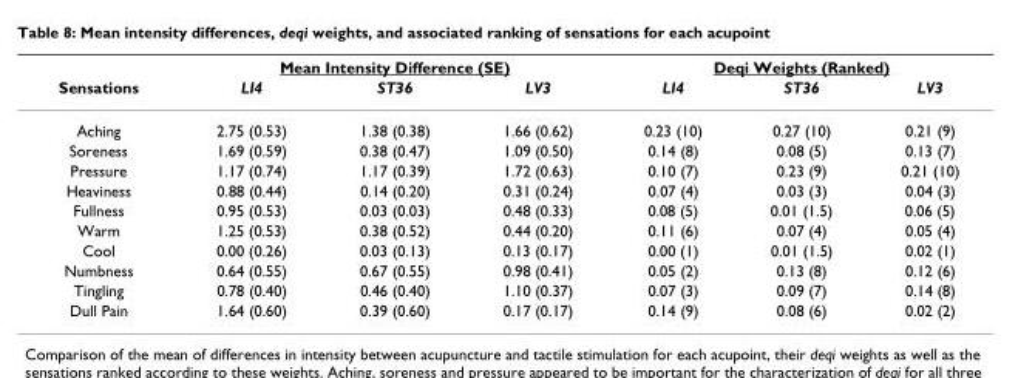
<table><thead><tr><td rowspan="2">Sensations</td><td colspan="3">Mean Intensity Difference (SE)</td><td colspan="3">Deqi Weights (Ranked)</td></tr><tr><td>LI4</td><td>ST36</td><td>LV3</td><td>LI4</td><td>ST36</td><td>LV3</td></tr></thead><tbody><tr><td>Aching</td><td>2.75 (0.53)</td><td>1.38 (0.38)</td><td>1.66 (0.62)</td><td>0.23 (10)</td><td>0.27 (10)</td><td>0.21 (9)</td></tr><tr><td>Soreness</td><td>1.69 (0.59)</td><td>0.38 (0.47)</td><td>1.09 (0.50)</td><td>0.14 (8)</td><td>0.08 (5)</td><td>0.13 (7)</td></tr><tr><td>Pressure</td><td>1.17 (0.74)</td><td>1.17 (0.39)</td><td>1.72 (0.63)</td><td>0.10 (7)</td><td>0.23 (9)</td><td>0.21 (10)</td></tr><tr><td>Heaviness</td><td>0.88 (0.44)</td><td>0.14 (0.20)</td><td>0.31 (0.24)</td><td>0.07 (4)</td><td>0.03 (3)</td><td>0.04 (3)</td></tr><tr><td>Fullness</td><td>0.95 (0.53)</td><td>0.03 (0.03)</td><td>0.48 (0.33)</td><td>0.08 (5)</td><td>0.01 (1.5)</td><td>0.06 (5)</td></tr><tr><td>Warm</td><td>1.25 (0.53)</td><td>0.38 (0.52)</td><td>0.44 (0.20)</td><td>0.11 (6)</td><td>0.07 (4)</td><td>0.05 (4)</td></tr><tr><td>Cool</td><td>0.00 (0.26)</td><td>0.03 (0.13)</td><td>0.13 (0.17)</td><td>0.00 (1)</td><td>0.01 (1.5)</td><td>0.02 (1)</td></tr><tr><td>Numbness</td><td>0.64 (0.55)</td><td>0.67 (0.55)</td><td>0.98 (0.41)</td><td>0.05 (2)</td><td>0.13 (8)</td><td>0.12 (6)</td></tr><tr><td>Tingling</td><td>0.78 (0.40)</td><td>0.46 (0.40)</td><td>1.10 (0.37)</td><td>0.07 (3)</td><td>0.09 (7)</td><td>0.14 (8)</td></tr><tr><td>Dull Pain</td><td>1.64 (0.60)</td><td>0.39 (0.60)</td><td>0.17 (0.17)</td><td>0.14 (9)</td><td>0.08 (6)</td><td>0.02 (2)</td></tr></tbody></table>